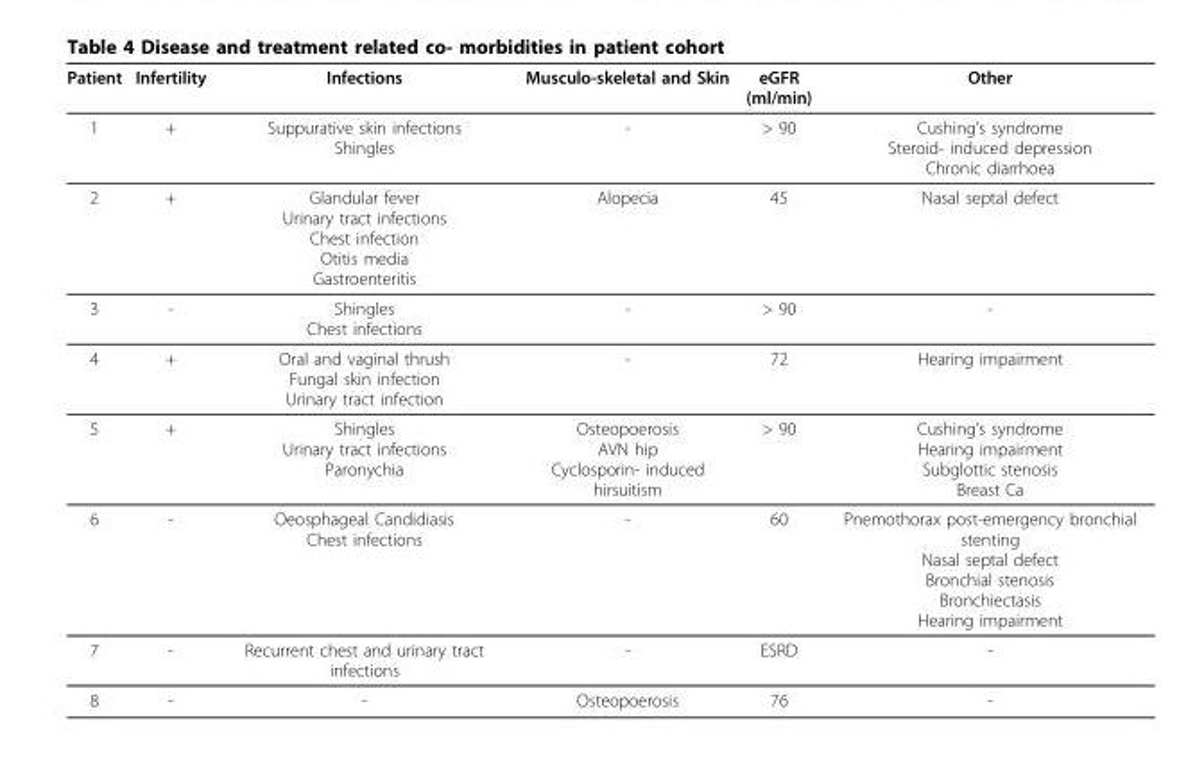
<table><thead><tr><td>Patient</td><td>Infertility</td><td>Infections</td><td>Musculo-skeletal and Skin</td><td>eGFR (ml/min)</td><td>Other</td></tr></thead><tbody><tr><td>1</td><td>+</td><td>Suppurative skin infections Shingles</td><td>-</td><td>&gt; 90</td><td>Cushing’s syndrome Steroid- induced depression Chronic diarrhoea</td></tr><tr><td>2</td><td>+</td><td>Glandular fever Urinary tract infections Chest infection Otitis media Gastroenteritis</td><td>Alopecia</td><td>45</td><td>Nasal septal defect</td></tr><tr><td>3</td><td>-</td><td>Shingles Chest infections</td><td>-</td><td>&gt; 90</td><td>-</td></tr><tr><td>4</td><td>+</td><td>Oral and vaginal thrush Fungal skin infection Urinary tract infection</td><td>-</td><td>72</td><td>Hearing impairment</td></tr><tr><td>5</td><td>+</td><td>Shingles Urinary tract infections Paronychia</td><td>Osteopoerosis AVN hip Cyclosporin- induced hirsuitism</td><td>&gt; 90</td><td>Cushing’s syndrome Hearing impairment Subglottic stenosis Breast Ca</td></tr><tr><td>6</td><td>-</td><td>Oeosphageal Candidiasis Chest infections</td><td>-</td><td>60</td><td>Pnemothorax post-emergency bronchial stenting Nasal septal defect Bronchial stenosis Bronchiectasis Hearing impairment</td></tr><tr><td>7</td><td>-</td><td>Recurrent chest and urinary tract infections</td><td>-</td><td>ESRD</td><td>-</td></tr><tr><td>8</td><td>-</td><td>-</td><td>Osteopoerosis</td><td>76</td><td>-</td></tr></tbody></table>